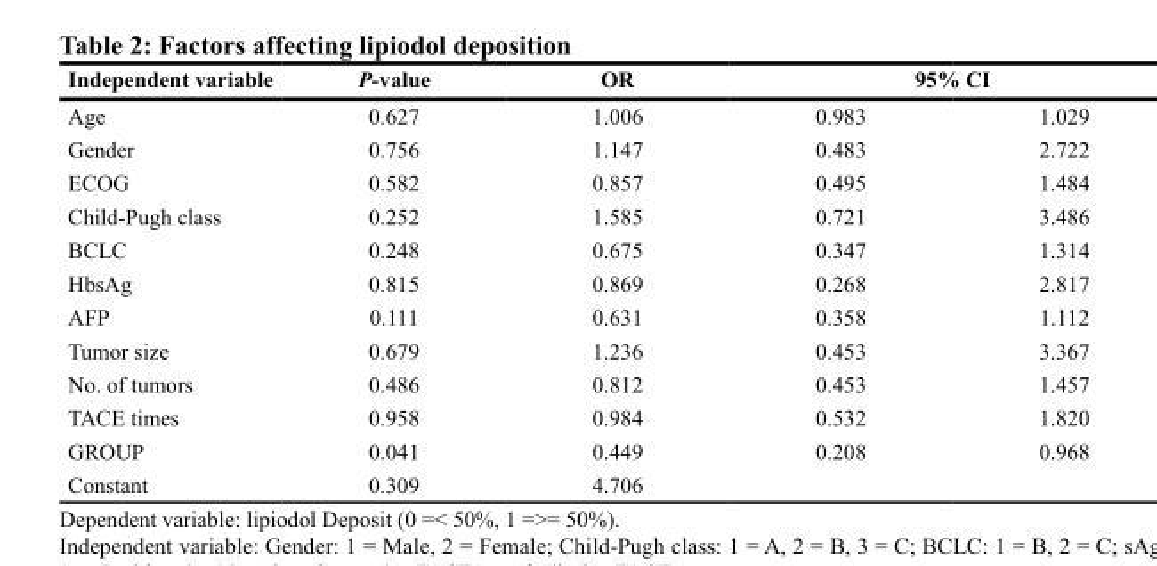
<table><thead><tr><td rowspan="2">Independent variable Age</td><td rowspan="2">P-value 0.627</td><td rowspan="2">OR 1.006</td><td colspan="2">95% CI</td></tr><tr><td>0.983</td><td>1.029</td></tr></thead><tbody><tr><td>Gender</td><td>0.756</td><td>1.147</td><td>0.483</td><td>2.722</td></tr><tr><td>ECOG</td><td>0.582</td><td>0.857</td><td>0.495</td><td>1.484</td></tr><tr><td>Child-Pugh class</td><td>0.252</td><td>1.585</td><td>0.721</td><td>3.486</td></tr><tr><td>BCLC</td><td>0.248</td><td>0.675</td><td>0.347</td><td>1.314</td></tr><tr><td>HbsAg</td><td>0.815</td><td>0.869</td><td>0.268</td><td>2.817</td></tr><tr><td>AFP</td><td>0.111</td><td>0.631</td><td>0.358</td><td>1.112</td></tr><tr><td>Tumor size</td><td>0.679</td><td>1.236</td><td>0.453</td><td>3.367</td></tr><tr><td>No. of tumors</td><td>0.486</td><td>0.812</td><td>0.453</td><td>1.457</td></tr><tr><td>TACE times</td><td>0.958</td><td>0.984</td><td>0.532</td><td>1.820</td></tr><tr><td>GROUP</td><td>0.041</td><td>0.449</td><td>0.208</td><td>0.968</td></tr><tr><td>Constant</td><td>0.309</td><td>4.706</td><td></td><td></td></tr></tbody></table>